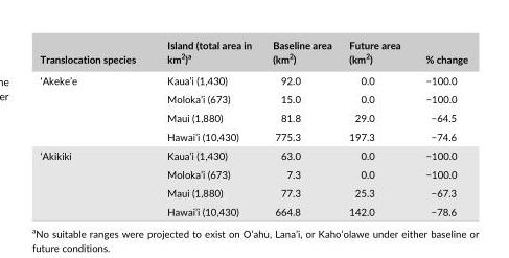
<table><thead><tr><td>Translocation species</td><td>Island (total area in km<sup>2</sup>)<sup>a</sup></td><td>Baseline area (km<sup>2</sup>)</td><td>Future area (km<sup>2</sup>)</td><td>% change</td></tr></thead><tbody><tr><td rowspan="4">‘Akeke’e</td><td>Kaua’i (1,430)</td><td>92.0</td><td>0.0</td><td>−100.0</td></tr><tr><td>Moloka’i (673)</td><td>15.0</td><td>0.0</td><td>−100.0</td></tr><tr><td>Maui (1,880)</td><td>81.8</td><td>29.0</td><td>−64.5</td></tr><tr><td>Hawai’i (10,430)</td><td>775.3</td><td>197.3</td><td>−74.6</td></tr><tr><td rowspan="4">‘Akikiki</td><td>Kaua’i (1,430)</td><td>63.0</td><td>0.0</td><td>−100.0</td></tr><tr><td>Moloka’i (673)</td><td>7.3</td><td>0.0</td><td>−100.0</td></tr><tr><td>Maui (1,880)</td><td>77.3</td><td>25.3</td><td>−67.3</td></tr><tr><td>Hawai’i (10,430)</td><td>664.8</td><td>142.0</td><td>−78.6</td></tr></tbody></table>